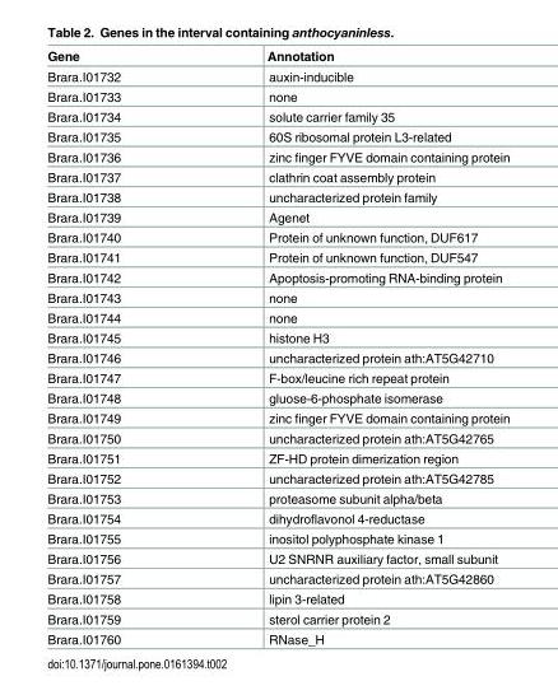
<table><thead><tr><td>Gene</td><td>Annotation</td></tr></thead><tbody><tr><td>Brara.I01732</td><td>auxin-inducible</td></tr><tr><td>Brara.I01733</td><td>none</td></tr><tr><td>Brara.I01734</td><td>solute carrier family 35</td></tr><tr><td>Brara.I01735</td><td>60S ribosomal protein L3-related</td></tr><tr><td>Brara.I01736</td><td>zinc finger FYVE domain containing protein</td></tr><tr><td>Brara.I01737</td><td>clathrin coat assembly protein</td></tr><tr><td>Brara.I01738</td><td>uncharacterized protein family</td></tr><tr><td>Brara.I01739</td><td>Agenet</td></tr><tr><td>Brara.I01740</td><td>Protein of unknown function, DUF617</td></tr><tr><td>Brara.I01741</td><td>Protein of unknown function, DUF547</td></tr><tr><td>Brara.I01742</td><td>Apoptosis-promoting RNA-binding protein</td></tr><tr><td>Brara.I01743</td><td>none</td></tr><tr><td>Brara.I01744</td><td>none</td></tr><tr><td>Brara.I01745</td><td>histone H3</td></tr><tr><td>Brara.I01746</td><td>uncharacterized protein ath:AT5G42710</td></tr><tr><td>Brara.I01747</td><td>F-box/leucine rich repeat protein</td></tr><tr><td>Brara.I01748</td><td>gluose-6-phosphate isomerase</td></tr><tr><td>Brara.I01749</td><td>zinc finger FYVE domain containing protein</td></tr><tr><td>Brara.I01750</td><td>uncharacterized protein ath:AT5G42765</td></tr><tr><td>Brara.I01751</td><td>ZF-HD protein dimerization region</td></tr><tr><td>Brara.I01752</td><td>uncharacterized protein ath:AT5G42785</td></tr><tr><td>Brara.I01753</td><td>proteasome subunit alpha/beta</td></tr><tr><td>Brara.I01754</td><td>dihydroflavonol 4-reductase</td></tr><tr><td>Brara.I01755</td><td>inositol polyphosphate kinase 1</td></tr><tr><td>Brara.I01756</td><td>U2 SNRNR auxiliary factor, small subunit</td></tr><tr><td>Brara.I01757</td><td>uncharacterized protein ath:AT5G42860</td></tr><tr><td>Brara.I01758</td><td>lipin 3-related</td></tr><tr><td>Brara.I01759</td><td>sterol carrier protein 2</td></tr><tr><td>Brara.I01760</td><td>RNase_H</td></tr></tbody></table>